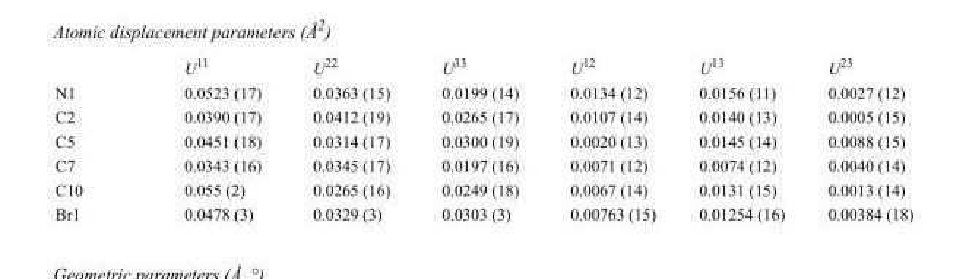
<table><thead><tr><td></td><td>U<sup>11</sup></td><td>U<sup>22</sup></td><td>U<sup>33</sup></td><td>U<sup>12</sup></td><td>U<sup>13</sup></td><td>U<sup>23</sup></td></tr></thead><tbody><tr><td>N1</td><td>0.0523 (17)</td><td>0.0363 (15)</td><td>0.0199 (14)</td><td>0.0134 (12)</td><td>0.0156 (11)</td><td>0.0027 (12)</td></tr><tr><td>C2</td><td>0.0390 (17)</td><td>0.0412 (19)</td><td>0.0265 (17)</td><td>0.0107 (14)</td><td>0.0140 (13)</td><td>0.0005 (15)</td></tr><tr><td>C5</td><td>0.0451 (18)</td><td>0.0314 (17)</td><td>0.0300 (19)</td><td>0.0020 (13)</td><td>0.0145 (14)</td><td>0.0088 (15)</td></tr><tr><td>C7</td><td>0.0343 (16)</td><td>0.0345 (17)</td><td>0.0197 (16)</td><td>0.0071 (12)</td><td>0.0074 (12)</td><td>0.0040 (14)</td></tr><tr><td>C10</td><td>0.055 (2)</td><td>0.0265 (16)</td><td>0.0249 (18)</td><td>0.0067 (14)</td><td>0.0131 (15)</td><td>0.0013 (14)</td></tr><tr><td>Br1</td><td>0.0478 (3)</td><td>0.0329 (3)</td><td>0.0303 (3)</td><td>0.00763 (15)</td><td>0.01254 (16)</td><td>0.00384 (18)</td></tr></tbody></table>